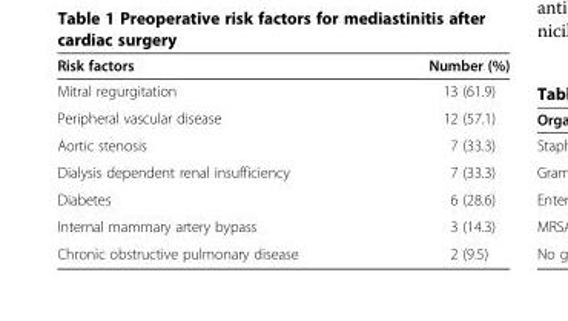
<table><thead><tr><td>Risk factors</td><td>Number (%)</td></tr></thead><tbody><tr><td>Mitral regurgitation</td><td>13 (61.9)</td></tr><tr><td>Peripheral vascular disease</td><td>12 (57.1)</td></tr><tr><td>Aortic stenosis</td><td>7 (33.3)</td></tr><tr><td>Dialysis dependent renal insufficiency</td><td>7 (33.3)</td></tr><tr><td>Diabetes</td><td>6 (28.6)</td></tr><tr><td>Internal mammary artery bypass</td><td>3 (14.3)</td></tr><tr><td>Chronic obstructive pulmonary disease</td><td>2 (9.5)</td></tr></tbody></table>